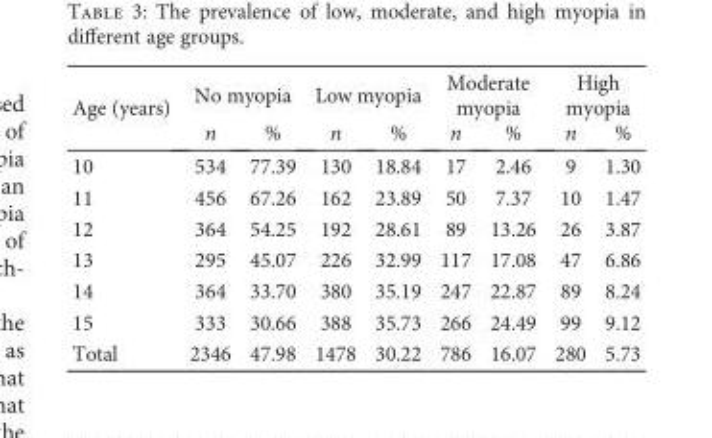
<table><thead><tr><td rowspan="2">Age (years)</td><td colspan="2">No myopia</td><td colspan="2">Low myopia</td><td colspan="2">Moderate myopia</td><td colspan="2">High myopia</td></tr><tr><td>n</td><td>%</td><td>n</td><td>%</td><td>n</td><td>%</td><td>n</td><td>%</td></tr></thead><tbody><tr><td>10</td><td>534</td><td>77.39</td><td>130</td><td>18.84</td><td>17</td><td>2.46</td><td>9</td><td>1.30</td></tr><tr><td>11</td><td>456</td><td>67.26</td><td>162</td><td>23.89</td><td>50</td><td>7.37</td><td>10</td><td>1.47</td></tr><tr><td>12</td><td>364</td><td>54.25</td><td>192</td><td>28.61</td><td>89</td><td>13.26</td><td>26</td><td>3.87</td></tr><tr><td>13</td><td>295</td><td>45.07</td><td>226</td><td>32.99</td><td>117</td><td>17.08</td><td>47</td><td>6.86</td></tr><tr><td>14</td><td>364</td><td>33.70</td><td>380</td><td>35.19</td><td>247</td><td>22.87</td><td>89</td><td>8.24</td></tr><tr><td>15</td><td>333</td><td>30.66</td><td>388</td><td>35.73</td><td>266</td><td>24.49</td><td>99</td><td>9.12</td></tr><tr><td>Total</td><td>2346</td><td>47.98</td><td>1478</td><td>30.22</td><td>786</td><td>16.07</td><td>280</td><td>5.73</td></tr></tbody></table>